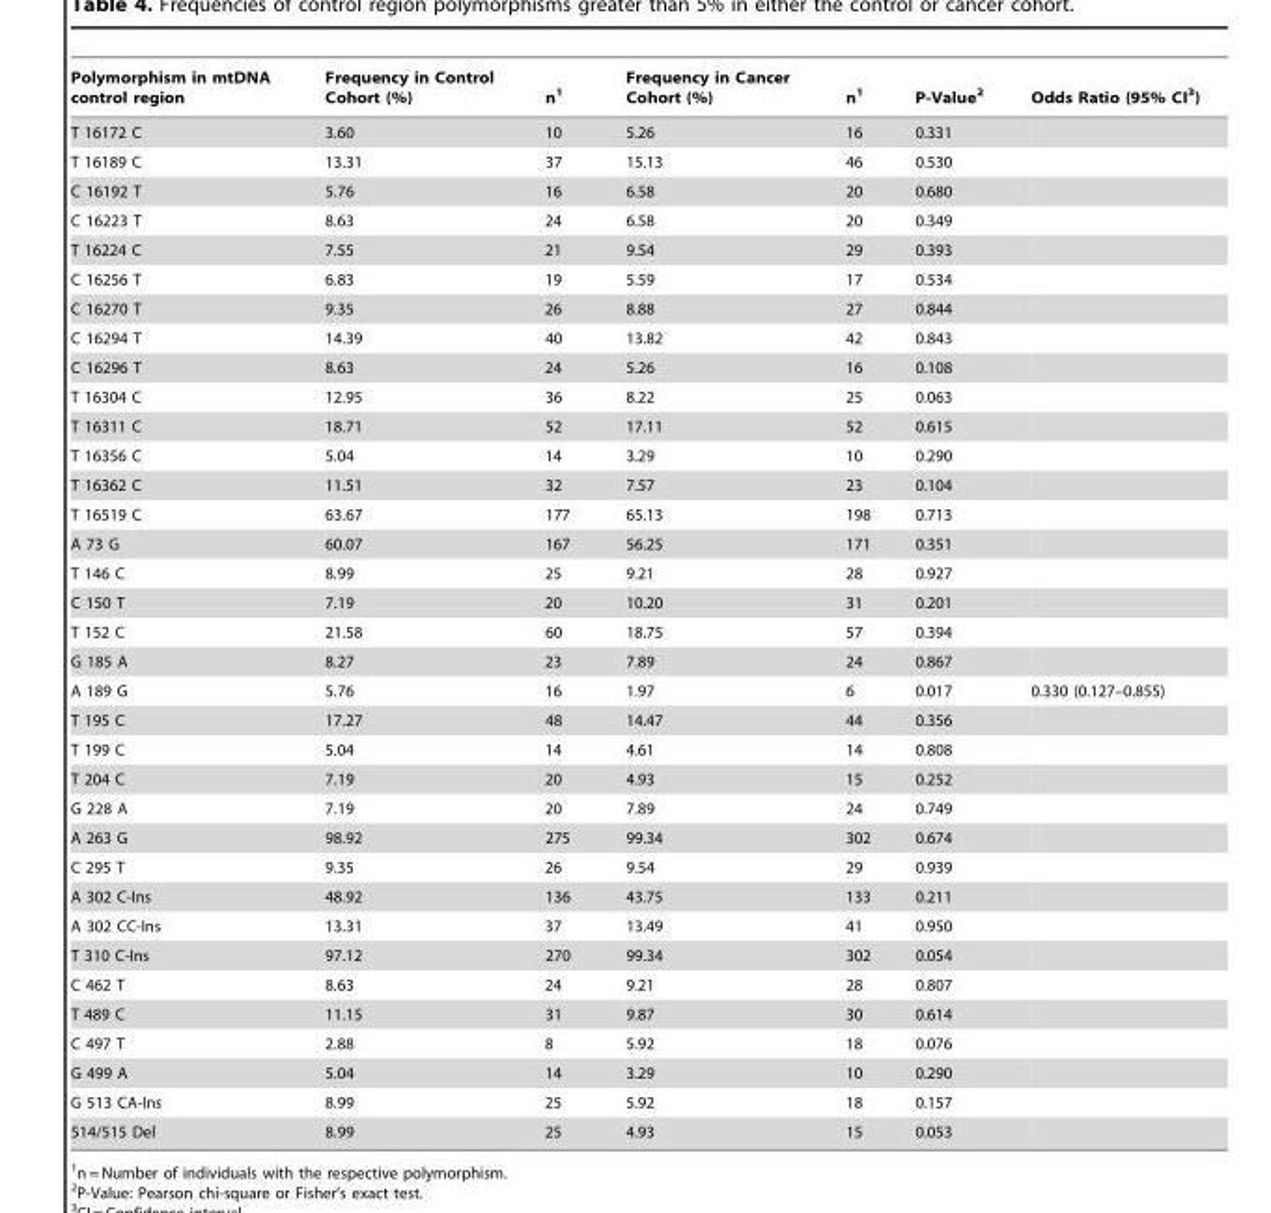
<table><thead><tr><td>Polymorphism in mtDNA control region</td><td>Frequency in Control Cohort (%)</td><td>n<sup>1</sup></td><td>Frequency in Cancer Cohort (%)</td><td>n<sup>1</sup></td><td>P-Value<sup>2</sup></td><td>Odds Ratio (95% CI<sup>3</sup>)</td></tr></thead><tbody><tr><td>T 16172 C</td><td>3.60</td><td>10</td><td>5.26</td><td>16</td><td>0.331</td><td></td></tr><tr><td>T 16189 C</td><td>13.31</td><td>37</td><td>15.13</td><td>46</td><td>0.530</td><td></td></tr><tr><td>C 16192 T</td><td>5.76</td><td>16</td><td>6.58</td><td>20</td><td>0.680</td><td></td></tr><tr><td>C 16223 T</td><td>8.63</td><td>24</td><td>6.58</td><td>20</td><td>0.349</td><td></td></tr><tr><td>T 16224 C</td><td>7.55</td><td>21</td><td>9.54</td><td>29</td><td>0.393</td><td></td></tr><tr><td>C 16256 T</td><td>6.83</td><td>19</td><td>5.59</td><td>17</td><td>0.534</td><td></td></tr><tr><td>C 16270 T</td><td>9.35</td><td>26</td><td>8.88</td><td>27</td><td>0.844</td><td></td></tr><tr><td>C 16294 T</td><td>14.39</td><td>40</td><td>13.82</td><td>42</td><td>0.843</td><td></td></tr><tr><td>C 16296 T</td><td>8.63</td><td>24</td><td>5.26</td><td>16</td><td>0.108</td><td></td></tr><tr><td>T 16304 C</td><td>12.95</td><td>36</td><td>8.22</td><td>25</td><td>0.063</td><td></td></tr><tr><td>T 16311 C</td><td>18.71</td><td>52</td><td>17.11</td><td>52</td><td>0.615</td><td></td></tr><tr><td>T 16356 C</td><td>5.04</td><td>14</td><td>3.29</td><td>10</td><td>0.290</td><td></td></tr><tr><td>T 16362 C</td><td>11.51</td><td>32</td><td>7.57</td><td>23</td><td>0.104</td><td></td></tr><tr><td>T 16519 C</td><td>63.67</td><td>177</td><td>65.13</td><td>198</td><td>0.713</td><td></td></tr><tr><td>A 73 G</td><td>60.07</td><td>167</td><td>56.25</td><td>171</td><td>0.351</td><td></td></tr><tr><td>T 146 C</td><td>8.99</td><td>25</td><td>9.21</td><td>28</td><td>0.927</td><td></td></tr><tr><td>C 150 T</td><td>7.19</td><td>20</td><td>10.20</td><td>31</td><td>0.201</td><td></td></tr><tr><td>T 152 C</td><td>21.58</td><td>60</td><td>18.75</td><td>57</td><td>0.394</td><td></td></tr><tr><td>G 185 A</td><td>8.27</td><td>23</td><td>7.89</td><td>24</td><td>0.867</td><td></td></tr><tr><td>A 189 G</td><td>5.76</td><td>16</td><td>1.97</td><td>6</td><td>0.017</td><td>0.330 (0.127–0.855)</td></tr><tr><td>T 195 C</td><td>17.27</td><td>48</td><td>14.47</td><td>44</td><td>0.356</td><td></td></tr><tr><td>T 199 C</td><td>5.04</td><td>14</td><td>4.61</td><td>14</td><td>0.808</td><td></td></tr><tr><td>T 204 C</td><td>7.19</td><td>20</td><td>4.93</td><td>15</td><td>0.252</td><td></td></tr><tr><td>G 228 A</td><td>7.19</td><td>20</td><td>7.89</td><td>24</td><td>0.749</td><td></td></tr><tr><td>A 263 G</td><td>98.92</td><td>275</td><td>99.34</td><td>302</td><td>0.674</td><td></td></tr><tr><td>C 295 T</td><td>9.35</td><td>26</td><td>9.54</td><td>29</td><td>0.939</td><td></td></tr><tr><td>A 302 C-Ins</td><td>48.92</td><td>136</td><td>43.75</td><td>133</td><td>0.211</td><td></td></tr><tr><td>A 302 CC-Ins</td><td>13.31</td><td>37</td><td>13.49</td><td>41</td><td>0.950</td><td></td></tr><tr><td>T 310 C-Ins</td><td>97.12</td><td>270</td><td>99.34</td><td>302</td><td>0.054</td><td></td></tr><tr><td>C 462 T</td><td>8.63</td><td>24</td><td>9.21</td><td>28</td><td>0.807</td><td></td></tr><tr><td>T 489 C</td><td>11.15</td><td>31</td><td>9.87</td><td>30</td><td>0.614</td><td></td></tr><tr><td>C 497 T</td><td>2.88</td><td>8</td><td>5.92</td><td>18</td><td>0.076</td><td></td></tr><tr><td>G 499 A</td><td>5.04</td><td>14</td><td>3.29</td><td>10</td><td>0.290</td><td></td></tr><tr><td>G 513 CA-Ins</td><td>8.99</td><td>25</td><td>5.92</td><td>18</td><td>0.157</td><td></td></tr><tr><td>514/515 Del</td><td>8.99</td><td>25</td><td>4.93</td><td>15</td><td>0.053</td><td></td></tr></tbody></table>